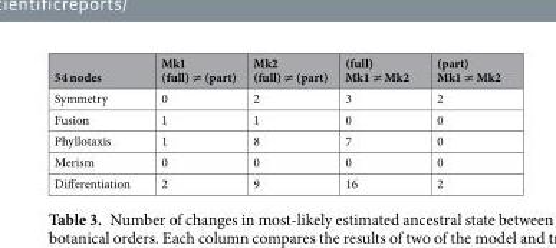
<table><thead><tr><td>54 nodes</td><td>Mk1 (full) ≠ (part)</td><td>Mk2 (full) ≠ (part)</td><td>(full) Mk1 ≠ Mk2</td><td>(part) Mk1 ≠ Mk2</td></tr></thead><tbody><tr><td>Symmetry</td><td>0</td><td>2</td><td>3</td><td>2</td></tr><tr><td>Fusion</td><td>1</td><td>1</td><td>0</td><td>0</td></tr><tr><td>Phyllotaxis</td><td>1</td><td>8</td><td>7</td><td>0</td></tr><tr><td>Merism</td><td>0</td><td>0</td><td>0</td><td>0</td></tr><tr><td>Differentiation</td><td>2</td><td>9</td><td>16</td><td>2</td></tr></tbody></table>